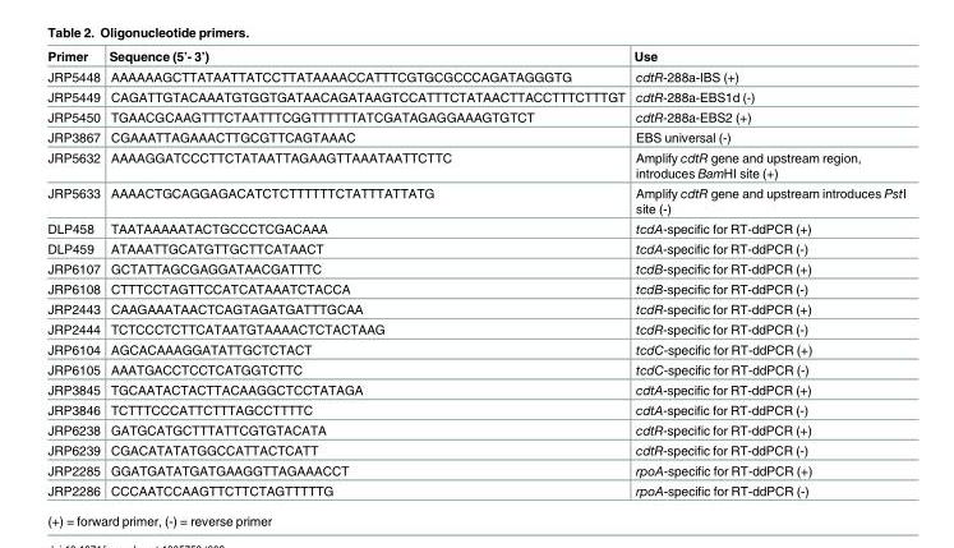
<table><thead><tr><td>Primer</td><td>Sequence (5’- 3’)</td><td>Use</td></tr></thead><tbody><tr><td>JRP5448</td><td>AAAAAAGCTTATAATTATCCTTATAAAACCATTTCGTGCGCCCAGATAGGGTG</td><td>cdtR-288a-IBS (+)</td></tr><tr><td>JRP5449</td><td>CAGATTGTACAAATGTGGTGATAACAGATAAGTCCATTTCTATAACTTACCTTTCTTTGT</td><td>cdtR-288a-EBS1d (-)</td></tr><tr><td>JRP5450</td><td>TGAACGCAAGTTTCTAATTTCGGTTTTTTATCGATAGAGGAAAGTGTCT</td><td>cdtR-288a-EBS2 (+)</td></tr><tr><td>JRP3867</td><td>CGAAATTAGAAACTTGCGTTCAGTAAAC</td><td>EBS universal (-)</td></tr><tr><td>JRP5632</td><td>AAAAGGATCCCTTCTATAATTAGAAGTTAAATAATTCTTC</td><td>Amplify cdtR gene and upstream region, introduces BamHI site (+)</td></tr><tr><td>JRP5633</td><td>AAAACTGCAGGAGACATCTCTTTTTTCTATTTATTATG</td><td>Amplify cdtR gene and upstream introduces PstI site (-)</td></tr><tr><td>DLP458</td><td>TAATAAAAATACTGCCCTCGACAAA</td><td>tcdA-specific for RT-ddPCR (+)</td></tr><tr><td>DLP459</td><td>ATAAATTGCATGTTGCTTCATAACT</td><td>tcdA-specific for RT-ddPCR (-)</td></tr><tr><td>JRP6107</td><td>GCTATTAGCGAGGATAACGATTTC</td><td>tcdB-specific for RT-ddPCR (+)</td></tr><tr><td>JRP6108</td><td>CTTTCCTAGTTCCATCATAAATCTACCA</td><td>tcdB-specific for RT-ddPCR (-)</td></tr><tr><td>JRP2443</td><td>CAAGAAATAACTCAGTAGATGATTTGCAA</td><td>tcdR-specific for RT-ddPCR (+)</td></tr><tr><td>JRP2444</td><td>TCTCCCTCTTCATAATGTAAAACTCTACTAAG</td><td>tcdR-specific for RT-ddPCR (-)</td></tr><tr><td>JRP6104</td><td>AGCACAAAGGATATTGCTCTACT</td><td>tcdC-specific for RT-ddPCR (+)</td></tr><tr><td>JRP6105</td><td>AAATGACCTCCTCATGGTCTTC</td><td>tcdC-specific for RT-ddPCR (-)</td></tr><tr><td>JRP3845</td><td>TGCAATACTACTTACAAGGCTCCTATAGA</td><td>cdtA-specific for RT-ddPCR (+)</td></tr><tr><td>JRP3846</td><td>TCTTTCCCATTCTTTAGCCTTTTC</td><td>cdtA-specific for RT-ddPCR (-)</td></tr><tr><td>JRP6238</td><td>GATGCATGCTTTATTCGTGTACATA</td><td>cdtR-specific for RT-ddPCR (+)</td></tr><tr><td>JRP6239</td><td>CGACATATATGGCCATTACTCATT</td><td>cdtR-specific for RT-ddPCR (-)</td></tr><tr><td>JRP2285</td><td>GGATGATATGATGAAGGTTAGAAACCT</td><td>rpoA-specific for RT-ddPCR (+)</td></tr><tr><td>JRP2286</td><td>CCCAATCCAAGTTCTTCTAGTTTTTG</td><td>rpoA-specific for RT-ddPCR (-)</td></tr></tbody></table>